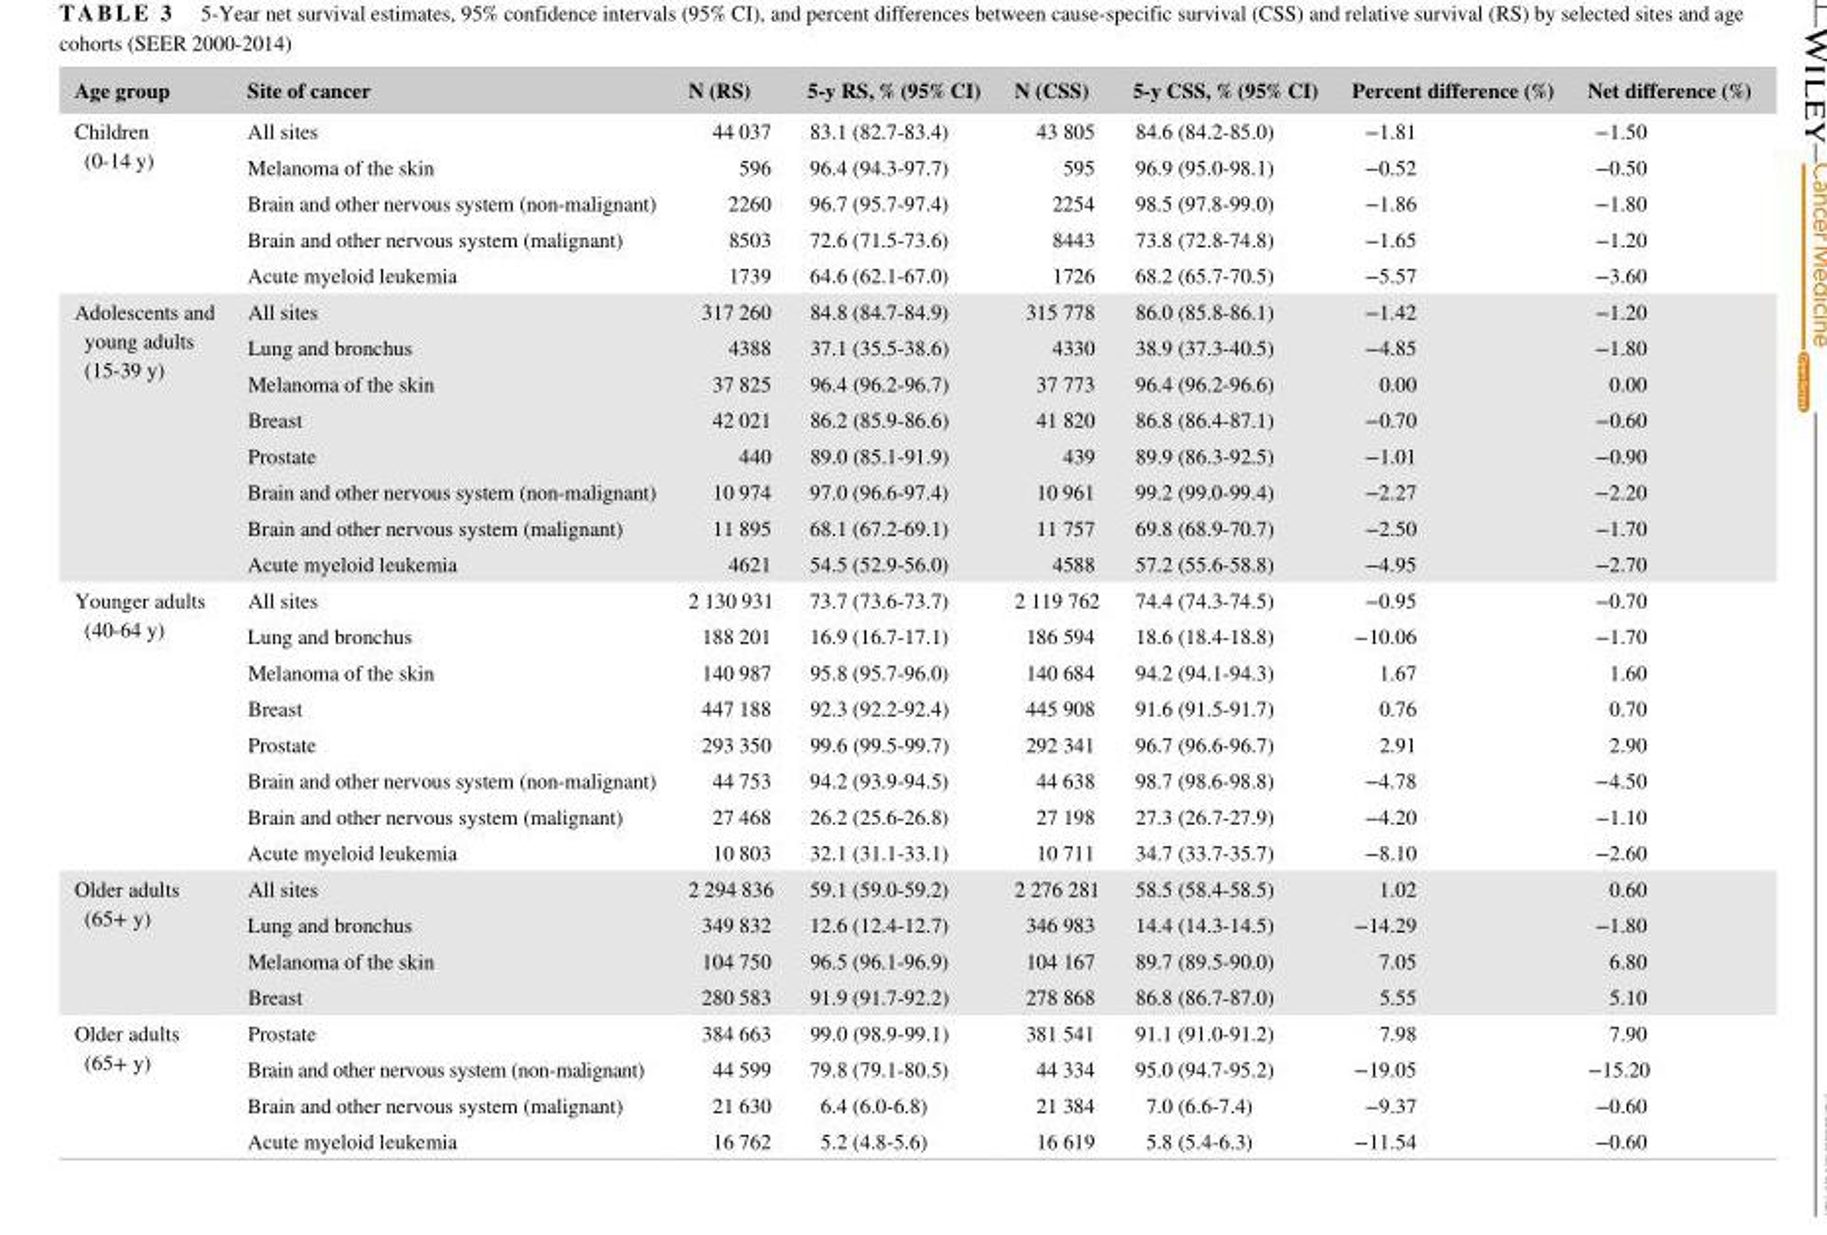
<table><thead><tr><td>Age group</td><td>Site of cancer</td><td>N (RS)</td><td>5- y RS, % (95% CI)</td><td>N (CSS)</td><td>5- y CSS, % (95% CI)</td><td>Percent difference (%)</td><td>Net difference (%)</td></tr></thead><tbody><tr><td rowspan="5">Children (0- 14 y)</td><td>All sites</td><td>44 037</td><td>83.1 (82.7- 83.4)</td><td>43 805</td><td>84.6 (84.2- 85.0)</td><td>−1.81</td><td>−1.50</td></tr><tr><td>Melanoma of the skin</td><td>596</td><td>96.4 (94.3- 97.7)</td><td>595</td><td>96.9 (95.0- 98.1)</td><td>−0.52</td><td>−0.50</td></tr><tr><td>Brain and other nervous system (non-malignant)</td><td>2260</td><td>96.7 (95.7- 97.4)</td><td>2254</td><td>98.5 (97.8- 99.0)</td><td>−1.86</td><td>−1.80</td></tr><tr><td>Brain and other nervous system (malignant)</td><td>8503</td><td>72.6 (71.5- 73.6)</td><td>8443</td><td>73.8 (72.8- 74.8)</td><td>−1.65</td><td>−1.20</td></tr><tr><td>Acute myeloid leukemia</td><td>1739</td><td>64.6 (62.1- 67.0)</td><td>1726</td><td>68.2 (65.7- 70.5)</td><td>−5.57</td><td>−3.60</td></tr><tr><td rowspan="8">Adolescents and young adults (15- 39 y)</td><td>All sites</td><td>317 260</td><td>84.8 (84.7- 84.9)</td><td>315 778</td><td>86.0 (85.8- 86.1)</td><td>−1.42</td><td>−1.20</td></tr><tr><td>Lung and bronchus</td><td>4388</td><td>37.1 (35.5- 38.6)</td><td>4330</td><td>38.9 (37.3- 40.5)</td><td>−4.85</td><td>−1.80</td></tr><tr><td>Melanoma of the skin</td><td>37 825</td><td>96.4 (96.2- 96.7)</td><td>37 773</td><td>96.4 (96.2- 96.6)</td><td>0.00</td><td>0.00</td></tr><tr><td>Breast</td><td>42 021</td><td>86.2 (85.9- 86.6)</td><td>41 820</td><td>86.8 (86.4- 87.1)</td><td>−0.70</td><td>−0.60</td></tr><tr><td>Prostate</td><td>440</td><td>89.0 (85.1- 91.9)</td><td>439</td><td>89.9 (86.3- 92.5)</td><td>−1.01</td><td>−0.90</td></tr><tr><td>Brain and other nervous system (non-malignant)</td><td>10 974</td><td>97.0 (96.6- 97.4)</td><td>10 961</td><td>99.2 (99.0- 99.4)</td><td>−2.27</td><td>−2.20</td></tr><tr><td>Brain and other nervous system (malignant)</td><td>11 895</td><td>68.1 (67.2- 69.1)</td><td>11 757</td><td>69.8 (68.9- 70.7)</td><td>−2.50</td><td>−1.70</td></tr><tr><td>Acute myeloid leukemia</td><td>4621</td><td>54.5 (52.9- 56.0)</td><td>4588</td><td>57.2 (55.6- 58.8)</td><td>−4.95</td><td>−2.70</td></tr><tr><td rowspan="8">Younger adults (40- 64 y)</td><td>All sites</td><td>2 130 931</td><td>73.7 (73.6- 73.7)</td><td>2 119 762</td><td>74.4 (74.3- 74.5)</td><td>−0.95</td><td>−0.70</td></tr><tr><td>Lung and bronchus</td><td>188 201</td><td>16.9 (16.7- 17.1)</td><td>186 594</td><td>18.6 (18.4- 18.8)</td><td>−10.06</td><td>−1.70</td></tr><tr><td>Melanoma of the skin</td><td>140 987</td><td>95.8 (95.7- 96.0)</td><td>140 684</td><td>94.2 (94.1- 94.3)</td><td>1.67</td><td>1.60</td></tr><tr><td>Breast</td><td>447 188</td><td>92.3 (92.2- 92.4)</td><td>445 908</td><td>91.6 (91.5- 91.7)</td><td>0.76</td><td>0.70</td></tr><tr><td>Prostate</td><td>293 350</td><td>99.6 (99.5- 99.7)</td><td>292 341</td><td>96.7 (96.6- 96.7)</td><td>2.91</td><td>2.90</td></tr><tr><td>Brain and other nervous system (non-malignant)</td><td>44 753</td><td>94.2 (93.9- 94.5)</td><td>44 638</td><td>98.7 (98.6- 98.8)</td><td>−4.78</td><td>−4.50</td></tr><tr><td>Brain and other nervous system (malignant)</td><td>27 468</td><td>26.2 (25.6- 26.8)</td><td>27 198</td><td>27.3 (26.7- 27.9)</td><td>−4.20</td><td>−1.10</td></tr><tr><td>Acute myeloid leukemia</td><td>10 803</td><td>32.1 (31.1- 33.1)</td><td>10 711</td><td>34.7 (33.7- 35.7)</td><td>−8.10</td><td>−2.60</td></tr><tr><td rowspan="4">Older adults (65+ y)</td><td>All sites</td><td>2 294 836</td><td>59.1 (59.0- 59.2)</td><td>2 276 281</td><td>58.5 (58.4- 58.5)</td><td>1.02</td><td>0.60</td></tr><tr><td>Lung and bronchus</td><td>349 832</td><td>12.6 (12.4- 12.7)</td><td>346 983</td><td>14.4 (14.3- 14.5)</td><td>−14.29</td><td>−1.80</td></tr><tr><td>Melanoma of the skin</td><td>104 750</td><td>96.5 (96.1- 96.9)</td><td>104 167</td><td>89.7 (89.5- 90.0)</td><td>7.05</td><td>6.80</td></tr><tr><td>Breast</td><td>280 583</td><td>91.9 (91.7- 92.2)</td><td>278 868</td><td>86.8 (86.7- 87.0)</td><td>5.55</td><td>5.10</td></tr><tr><td rowspan="4">Older adults (65+ y)</td><td>Prostate</td><td>384 663</td><td>99.0 (98.9- 99.1)</td><td>381 541</td><td>91.1 (91.0- 91.2)</td><td>7.98</td><td>7.90</td></tr><tr><td>Brain and other nervous system (non-malignant)</td><td>44 599</td><td>79.8 (79.1- 80.5)</td><td>44 334</td><td>95.0 (94.7- 95.2)</td><td>−19.05</td><td>−15.20</td></tr><tr><td>Brain and other nervous system (malignant)</td><td>21 630</td><td>6.4 (6.0- 6.8)</td><td>21 384</td><td>7.0 (6.6- 7.4)</td><td>−9.37</td><td>−0.60</td></tr><tr><td>Acute myeloid leukemia</td><td>16 762</td><td>5.2 (4.8- 5.6)</td><td>16 619</td><td>5.8 (5.4- 6.3)</td><td>−11.54</td><td>−0.60</td></tr></tbody></table>